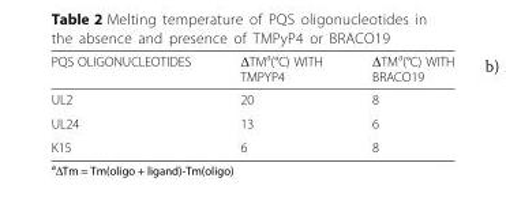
<table><thead><tr><td>PQS OLIGONUCLEOTIDES</td><td>ΔTM<sup>a</sup>(°C) WITH TMPYP4</td><td>ΔTM<sup>a</sup>(°C) WITH BRACO19</td></tr></thead><tbody><tr><td>UL2</td><td>20</td><td>8</td></tr><tr><td>UL24</td><td>13</td><td>6</td></tr><tr><td>K15</td><td>6</td><td>8</td></tr></tbody></table>